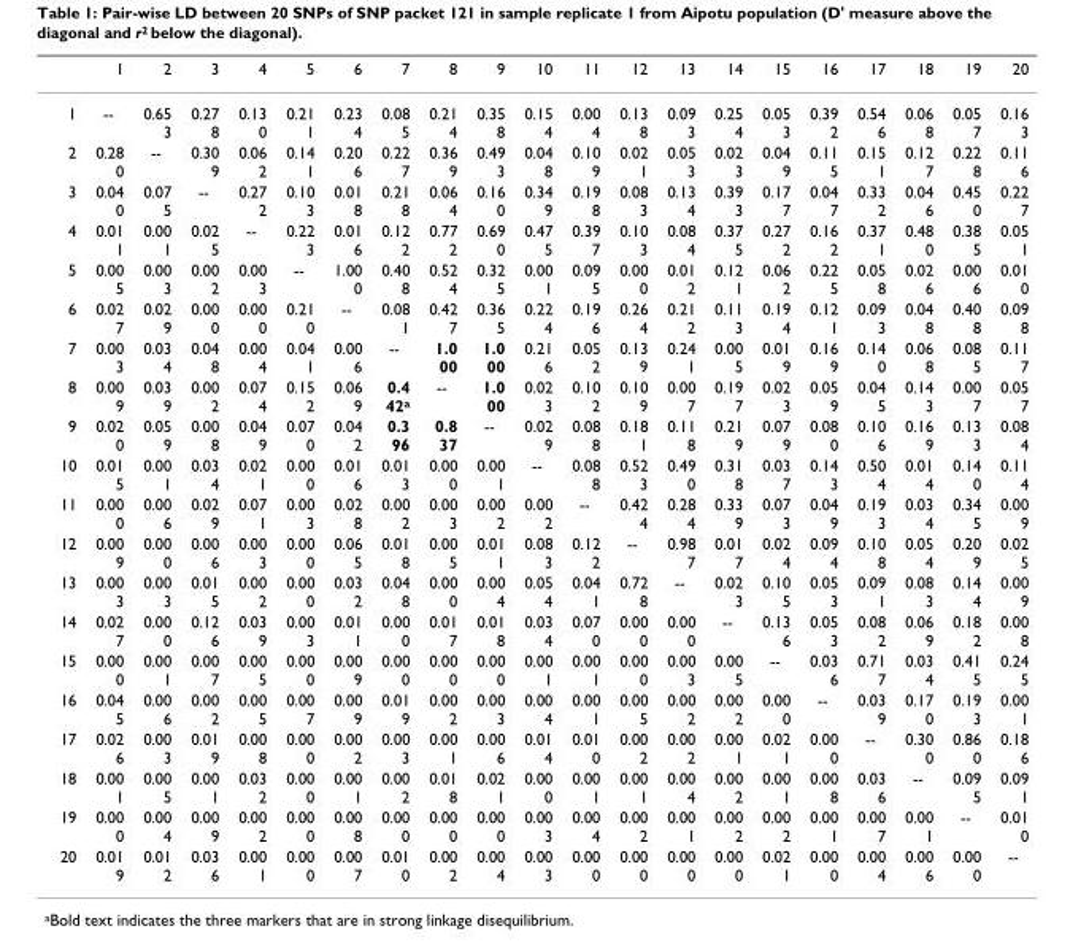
<table><thead><tr><td></td><td>1</td><td>2</td><td>3</td><td>4</td><td>5</td><td>6</td><td>7</td><td>8</td><td>9</td><td>10</td><td>11</td><td>12</td><td>13</td><td>14</td><td>15</td><td>16</td><td>17</td><td>18</td><td>19</td><td>20</td></tr></thead><tbody><tr><td>1</td><td>--</td><td>0.65 3</td><td>0.27 8</td><td>0.13 0</td><td>0.21 1</td><td>0.23 4</td><td>0.08 5</td><td>0.21 4</td><td>0.35 8</td><td>0.15 4</td><td>0.00 4</td><td>0.13 8</td><td>0.09 3</td><td>0.25 4</td><td>0.05 3</td><td>0.39 2</td><td>0.54 6</td><td>0.06 8</td><td>0.05 7</td><td>0.16 3</td></tr><tr><td>2</td><td>0.28 0</td><td>--</td><td>0.30 9</td><td>0.06 2</td><td>0.14 1</td><td>0.20 6</td><td>0.22 7</td><td>0.36 9</td><td>0.49 3</td><td>0.04 8</td><td>0.10 9</td><td>0.02 1</td><td>0.05 3</td><td>0.02 3</td><td>0.04 9</td><td>0.11 5</td><td>0.15 1</td><td>0.12 7</td><td>0.22 8</td><td>0.11 6</td></tr><tr><td>3</td><td>0.04 0</td><td>0.07 5</td><td>--</td><td>0.27 2</td><td>0.10 3</td><td>0.01 8</td><td>0.21 8</td><td>0.06 4</td><td>0.16 0</td><td>0.34 9</td><td>0.19 8</td><td>0.08 3</td><td>0.13 4</td><td>0.39 3</td><td>0.17 7</td><td>0.04 7</td><td>0.33 2</td><td>0.04 6</td><td>0.45 0</td><td>0.22 7</td></tr><tr><td>4</td><td>0.01 1</td><td>0.00 1</td><td>0.02 5</td><td>--</td><td>0.22 3</td><td>0.01 6</td><td>0.12 2</td><td>0.77 2</td><td>0.69 0</td><td>0.47 5</td><td>0.39 7</td><td>0.10 3</td><td>0.08 4</td><td>0.37 5</td><td>0.27 2</td><td>0.16 2</td><td>0.37 1</td><td>0.48 0</td><td>0.38 5</td><td>0.05 1</td></tr><tr><td>5</td><td>0.00 5</td><td>0.00 3</td><td>0.00 2</td><td>0.00 3</td><td>--</td><td>1.00 0</td><td>0.40 8</td><td>0.52 4</td><td>0.32 5</td><td>0.00 1</td><td>0.09 5</td><td>0.00 0</td><td>0.01 2</td><td>0.12 1</td><td>0.06 2</td><td>0.22 5</td><td>0.05 8</td><td>0.02 6</td><td>0.00 6</td><td>0.01 0</td></tr><tr><td>6</td><td>0.02 7</td><td>0.02 9</td><td>0.00 0</td><td>0.00 0</td><td>0.21 0</td><td>--</td><td>0.08 1</td><td>0.42 7</td><td>0.36 5</td><td>0.22 4</td><td>0.19 6</td><td>0.26 4</td><td>0.21 2</td><td>0.11 3</td><td>0.19 4</td><td>0.12 1</td><td>0.09 3</td><td>0.04 8</td><td>0.40 8</td><td>0.09 8</td></tr><tr><td>7</td><td>0.00 3</td><td>0.03 4</td><td>0.04 8</td><td>0.00 4</td><td>0.04 1</td><td>0.00 6</td><td>--</td><td>1.0 00</td><td>1.0 00</td><td>0.21 6</td><td>0.05 2</td><td>0.13 9</td><td>0.24 1</td><td>0.00 5</td><td>0.01 9</td><td>0.16 9</td><td>0.14 0</td><td>0.06 8</td><td>0.08 5</td><td>0.11 7</td></tr><tr><td>8</td><td>0.00 9</td><td>0.03 9</td><td>0.00 2</td><td>0.07 4</td><td>0.15 2</td><td>0.06 9</td><td>0.4 42a</td><td>--</td><td>1.0 00</td><td>0.02 3</td><td>0.10 2</td><td>0.10 9</td><td>0.00 7</td><td>0.19 7</td><td>0.02 3</td><td>0.05 9</td><td>0.04 5</td><td>0.14 3</td><td>0.00 7</td><td>0.05 7</td></tr><tr><td>9</td><td>0.02 0</td><td>0.05 9</td><td>0.00 8</td><td>0.04 9</td><td>0.07 0</td><td>0.04 2</td><td>0.3 96</td><td>0.8 37</td><td>--</td><td>0.02 9</td><td>0.08 8</td><td>0.18 1</td><td>0.11 8</td><td>0.21 9</td><td>0.07 9</td><td>0.08 0</td><td>0.10 6</td><td>0.16 9</td><td>0.13 3</td><td>0.08 4</td></tr><tr><td>10</td><td>0.01 5</td><td>0.00 1</td><td>0.03 4</td><td>0.02 1</td><td>0.00 0</td><td>0.01 6</td><td>0.01 3</td><td>0.00 0</td><td>0.00 1</td><td>--</td><td>0.08 8</td><td>0.52 3</td><td>0.49 0</td><td>0.31 8</td><td>0.03 7</td><td>0.14 3</td><td>0.50 4</td><td>0.01 4</td><td>0.14 0</td><td>0.11 4</td></tr><tr><td>11</td><td>0.00 0</td><td>0.00 6</td><td>0.02 9</td><td>0.07 1</td><td>0.00 3</td><td>0.02 8</td><td>0.00 2</td><td>0.00 3</td><td>0.00 2</td><td>0.00 2</td><td>--</td><td>0.42 4</td><td>0.28 4</td><td>0.33 9</td><td>0.07 3</td><td>0.04 9</td><td>0.19 3</td><td>0.03 4</td><td>0.34 5</td><td>0.00 9</td></tr><tr><td>12</td><td>0.00 9</td><td>0.00 0</td><td>0.00 6</td><td>0.00 3</td><td>0.00 0</td><td>0.06 5</td><td>0.01 8</td><td>0.00 5</td><td>0.01 1</td><td>0.08 3</td><td>0.12 2</td><td>--</td><td>0.98 7</td><td>0.01 7</td><td>0.02 4</td><td>0.09 4</td><td>0.10 8</td><td>0.05 4</td><td>0.20 9</td><td>0.02 5</td></tr><tr><td>13</td><td>0.00 3</td><td>0.00 3</td><td>0.01 5</td><td>0.00 2</td><td>0.00 0</td><td>0.03 2</td><td>0.04 8</td><td>0.00 0</td><td>0.00 4</td><td>0.05 4</td><td>0.04 1</td><td>0.72 8</td><td>--</td><td>0.02 3</td><td>0.10 5</td><td>0.05 3</td><td>0.09 1</td><td>0.08 3</td><td>0.14 4</td><td>0.00 9</td></tr><tr><td>14</td><td>0.02 7</td><td>0.00 0</td><td>0.12 6</td><td>0.03 9</td><td>0.00 3</td><td>0.01 1</td><td>0.00 0</td><td>0.01 7</td><td>0.01 8</td><td>0.03 4</td><td>0.07 0</td><td>0.00 0</td><td>0.00 0</td><td>--</td><td>0.13 6</td><td>0.05 3</td><td>0.08 2</td><td>0.06 9</td><td>0.18 2</td><td>0.00 8</td></tr><tr><td>15</td><td>0.00 0</td><td>0.00 1</td><td>0.00 7</td><td>0.00 5</td><td>0.00 0</td><td>0.00 9</td><td>0.00 0</td><td>0.00 0</td><td>0.00 0</td><td>0.00 1</td><td>0.00 1</td><td>0.00 0</td><td>0.00 3</td><td>0.00 5</td><td>--</td><td>0.03 6</td><td>0.71 7</td><td>0.03 4</td><td>0.41 5</td><td>0.24 5</td></tr><tr><td>16</td><td>0.04 5</td><td>0.00 6</td><td>0.00 2</td><td>0.00 5</td><td>0.00 7</td><td>0.00 9</td><td>0.01 9</td><td>0.00 2</td><td>0.00 3</td><td>0.00 4</td><td>0.00 1</td><td>0.00 5</td><td>0.00 2</td><td>0.00 2</td><td>0.00 0</td><td>--</td><td>0.03 9</td><td>0.17 0</td><td>0.19 3</td><td>0.00 1</td></tr><tr><td>17</td><td>0.02 6</td><td>0.00 3</td><td>0.01 9</td><td>0.00 8</td><td>0.00 0</td><td>0.00 2</td><td>0.00 3</td><td>0.00 1</td><td>0.00 6</td><td>0.01 4</td><td>0.01 0</td><td>0.00 2</td><td>0.00 2</td><td>0.00 1</td><td>0.02 1</td><td>0.00 0</td><td>--</td><td>0.30 0</td><td>0.86 0</td><td>0.18 6</td></tr><tr><td>18</td><td>0.00 1</td><td>0.00 5</td><td>0.00 1</td><td>0.03 2</td><td>0.00 0</td><td>0.00 1</td><td>0.00 2</td><td>0.01 8</td><td>0.02 1</td><td>0.00 0</td><td>0.00 1</td><td>0.00 1</td><td>0.00 4</td><td>0.00 2</td><td>0.00 1</td><td>0.00 8</td><td>0.03 6</td><td>--</td><td>0.09 5</td><td>0.09 1</td></tr><tr><td>19</td><td>0.00 0</td><td>0.00 4</td><td>0.00 9</td><td>0.00 2</td><td>0.00 0</td><td>0.00 8</td><td>0.00 0</td><td>0.00 0</td><td>0.00 0</td><td>0.00 3</td><td>0.00 4</td><td>0.00 2</td><td>0.00 1</td><td>0.00 2</td><td>0.00 2</td><td>0.00 1</td><td>0.00 7</td><td>0.00 1</td><td>--</td><td>0.01 0</td></tr><tr><td>20</td><td>0.01 9</td><td>0.01 2</td><td>0.03 6</td><td>0.00 1</td><td>0.00 0</td><td>0.00 7</td><td>0.01 0</td><td>0.00 2</td><td>0.00 4</td><td>0.00 3</td><td>0.00 0</td><td>0.00 0</td><td>0.00 0</td><td>0.00 0</td><td>0.02 1</td><td>0.00 0</td><td>0.00 4</td><td>0.00 6</td><td>0.00 0</td><td>--</td></tr></tbody></table>